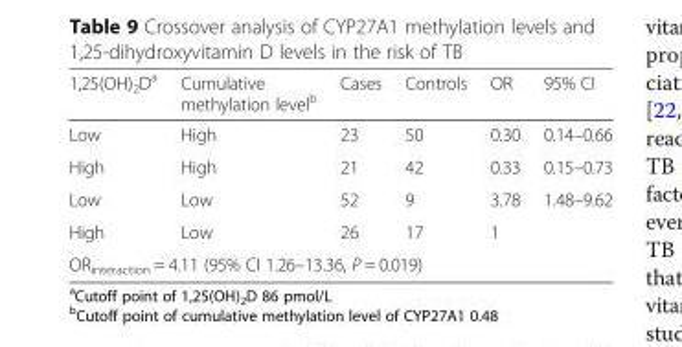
<table><thead><tr><td>1,25(OH)<sub>2</sub>D<sup>a</sup></td><td>Cumulative methylation level<sup>b</sup></td><td>Cases</td><td>Controls</td><td>OR</td><td>95% CI</td></tr></thead><tbody><tr><td>Low</td><td>High</td><td>23</td><td>50</td><td>0.30</td><td>0.14–0.66</td></tr><tr><td>High</td><td>High</td><td>21</td><td>42</td><td>0.33</td><td>0.15–0.73</td></tr><tr><td>Low</td><td>Low</td><td>52</td><td>9</td><td>3.78</td><td>1.48–9.62</td></tr><tr><td>High</td><td>Low</td><td>26</td><td>17</td><td>1</td><td></td></tr><tr><td colspan="6">OR<sub>interaction</sub> = 4.11 (95% CI 1.26–13.36, P = 0.019)</td></tr></tbody></table>